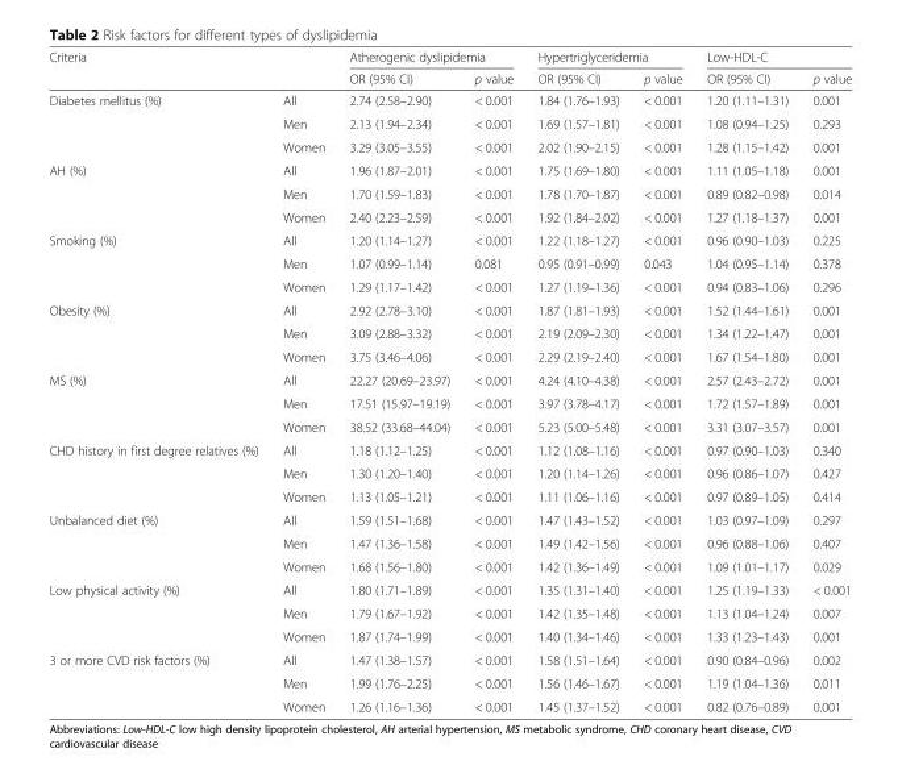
<table><thead><tr><td rowspan="2">Criteria</td><td rowspan="2"></td><td colspan="2">Atherogenic dyslipidemia</td><td colspan="2">Hypertriglyceridemia</td><td colspan="2">Low-HDL-C</td></tr><tr><td>OR (95% CI)</td><td>p value</td><td>OR (95% CI)</td><td>p value</td><td>OR (95% CI)</td><td>p value</td></tr></thead><tbody><tr><td rowspan="3">Diabetes mellitus (%)</td><td>All</td><td>2.74 (2.58–2.90)</td><td>&lt; 0.001</td><td>1.84 (1.76–1.93)</td><td>&lt; 0.001</td><td>1.20 (1.11–1.31)</td><td>0.001</td></tr><tr><td>Men</td><td>2.13 (1.94–2.34)</td><td>&lt; 0.001</td><td>1.69 (1.57–1.81)</td><td>&lt; 0.001</td><td>1.08 (0.94–1.25)</td><td>0.293</td></tr><tr><td>Women</td><td>3.29 (3.05–3.55)</td><td>&lt; 0.001</td><td>2.02 (1.90–2.15)</td><td>&lt; 0.001</td><td>1.28 (1.15–1.42)</td><td>0.001</td></tr><tr><td rowspan="3">AH (%)</td><td>All</td><td>1.96 (1.87–2.01)</td><td>&lt; 0.001</td><td>1.75 (1.69–1.80)</td><td>&lt; 0.001</td><td>1.11 (1.05–1.18)</td><td>0.001</td></tr><tr><td>Men</td><td>1.70 (1.59–1.83)</td><td>&lt; 0.001</td><td>1.78 (1.70–1.87)</td><td>&lt; 0.001</td><td>0.89 (0.82–0.98)</td><td>0.014</td></tr><tr><td>Women</td><td>2.40 (2.23–2.59)</td><td>&lt; 0.001</td><td>1.92 (1.84–2.02)</td><td>&lt; 0.001</td><td>1.27 (1.18–1.37)</td><td>0.001</td></tr><tr><td rowspan="3">Smoking (%)</td><td>All</td><td>1.20 (1.14–1.27)</td><td>&lt; 0.001</td><td>1.22 (1.18–1.27)</td><td>&lt; 0.001</td><td>0.96 (0.90–1.03)</td><td>0.225</td></tr><tr><td>Men</td><td>1.07 (0.99–1.14)</td><td>0.081</td><td>0.95 (0.91–0.99)</td><td>0.043</td><td>1.04 (0.95–1.14)</td><td>0.378</td></tr><tr><td>Women</td><td>1.29 (1.17–1.42)</td><td>&lt; 0.001</td><td>1.27 (1.19–1.36)</td><td>&lt; 0.001</td><td>0.94 (0.83–1.06)</td><td>0.296</td></tr><tr><td rowspan="3">Obesity (%)</td><td>All</td><td>2.92 (2.78–3.10)</td><td>&lt; 0.001</td><td>1.87 (1.81–1.93)</td><td>&lt; 0.001</td><td>1.52 (1.44–1.61)</td><td>0.001</td></tr><tr><td>Men</td><td>3.09 (2.88–3.32)</td><td>&lt; 0.001</td><td>2.19 (2.09–2.30)</td><td>&lt; 0.001</td><td>1.34 (1.22–1.47)</td><td>0.001</td></tr><tr><td>Women</td><td>3.75 (3.46–4.06)</td><td>&lt; 0.001</td><td>2.29 (2.19–2.40)</td><td>&lt; 0.001</td><td>1.67 (1.54–1.80)</td><td>0.001</td></tr><tr><td rowspan="3">MS (%)</td><td>All</td><td>22.27 (20.69–23.97)</td><td>&lt; 0.001</td><td>4.24 (4.10–4.38)</td><td>&lt; 0.001</td><td>2.57 (2.43–2.72)</td><td>0.001</td></tr><tr><td>Men</td><td>17.51 (15.97–19.19)</td><td>&lt; 0.001</td><td>3.97 (3.78–4.17)</td><td>&lt; 0.001</td><td>1.72 (1.57–1.89)</td><td>0.001</td></tr><tr><td>Women</td><td>38.52 (33.68–44.04)</td><td>&lt; 0.001</td><td>5.23 (5.00–5.48)</td><td>&lt; 0.001</td><td>3.31 (3.07–3.57)</td><td>0.001</td></tr><tr><td rowspan="3">CHD history in first degree relatives (%)</td><td>All</td><td>1.18 (1.12–1.25)</td><td>&lt; 0.001</td><td>1.12 (1.08–1.16)</td><td>&lt; 0.001</td><td>0.97 (0.90–1.03)</td><td>0.340</td></tr><tr><td>Men</td><td>1.30 (1.20–1.40)</td><td>&lt; 0.001</td><td>1.20 (1.14–1.26)</td><td>&lt; 0.001</td><td>0.96 (0.86–1.07)</td><td>0.427</td></tr><tr><td>Women</td><td>1.13 (1.05–1.21)</td><td>&lt; 0.001</td><td>1.11 (1.06–1.16)</td><td>&lt; 0.001</td><td>0.97 (0.89–1.05)</td><td>0.414</td></tr><tr><td rowspan="3">Unbalanced diet (%)</td><td>All</td><td>1.59 (1.51–1.68)</td><td>&lt; 0.001</td><td>1.47 (1.43–1.52)</td><td>&lt; 0.001</td><td>1.03 (0.97–1.09)</td><td>0.297</td></tr><tr><td>Men</td><td>1.47 (1.36–1.58)</td><td>&lt; 0.001</td><td>1.49 (1.42–1.56)</td><td>&lt; 0.001</td><td>0.96 (0.88–1.06)</td><td>0.407</td></tr><tr><td>Women</td><td>1.68 (1.56–1.80)</td><td>&lt; 0.001</td><td>1.42 (1.36–1.49)</td><td>&lt; 0.001</td><td>1.09 (1.01–1.17)</td><td>0.029</td></tr><tr><td rowspan="3">Low physical activity (%)</td><td>All</td><td>1.80 (1.71–1.89)</td><td>&lt; 0.001</td><td>1.35 (1.31–1.40)</td><td>&lt; 0.001</td><td>1.25 (1.19–1.33)</td><td>&lt; 0.001</td></tr><tr><td>Men</td><td>1.79 (1.67–1.92)</td><td>&lt; 0.001</td><td>1.42 (1.35–1.48)</td><td>&lt; 0.001</td><td>1.13 (1.04–1.24)</td><td>0.007</td></tr><tr><td>Women</td><td>1.87 (1.74–1.99)</td><td>&lt; 0.001</td><td>1.40 (1.34–1.46)</td><td>&lt; 0.001</td><td>1.33 (1.23–1.43)</td><td>0.001</td></tr><tr><td rowspan="3">3 or more CVD risk factors (%)</td><td>All</td><td>1.47 (1.38–1.57)</td><td>&lt; 0.001</td><td>1.58 (1.51–1.64)</td><td>&lt; 0.001</td><td>0.90 (0.84–0.96)</td><td>0.002</td></tr><tr><td>Men</td><td>1.99 (1.76–2.25)</td><td>&lt; 0.001</td><td>1.56 (1.46–1.67)</td><td>&lt; 0.001</td><td>1.19 (1.04–1.36)</td><td>0.011</td></tr><tr><td>Women</td><td>1.26 (1.16–1.36)</td><td>&lt; 0.001</td><td>1.45 (1.37–1.52)</td><td>&lt; 0.001</td><td>0.82 (0.76–0.89)</td><td>0.001</td></tr></tbody></table>